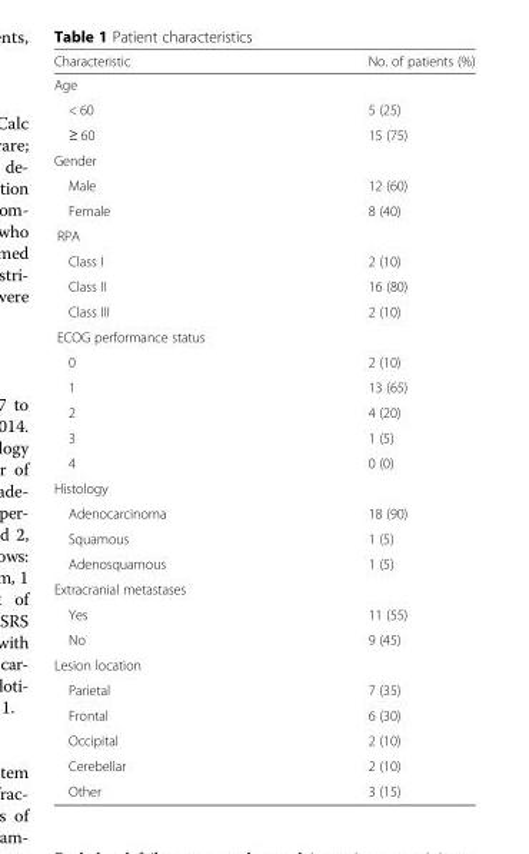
<table><thead><tr><td>Characteristic</td><td>No. of patients (%)</td></tr></thead><tbody><tr><td colspan="2">Age</td></tr><tr><td>&lt; 60</td><td>5 (25)</td></tr><tr><td>≥ 60</td><td>15 (75)</td></tr><tr><td colspan="2">Gender</td></tr><tr><td>Male</td><td>12 (60)</td></tr><tr><td>Female</td><td>8 (40)</td></tr><tr><td colspan="2">RPA</td></tr><tr><td>Class I</td><td>2 (10)</td></tr><tr><td>Class II</td><td>16 (80)</td></tr><tr><td>Class III</td><td>2 (10)</td></tr><tr><td colspan="2">ECOG performance status</td></tr><tr><td>0</td><td>2 (10)</td></tr><tr><td>1</td><td>13 (65)</td></tr><tr><td>2</td><td>4 (20)</td></tr><tr><td>3</td><td>1 (5)</td></tr><tr><td>4</td><td>0 (0)</td></tr><tr><td colspan="2">Histology</td></tr><tr><td>Adenocarcinoma</td><td>18 (90)</td></tr><tr><td>Squamous</td><td>1 (5)</td></tr><tr><td>Adenosquamous</td><td>1 (5)</td></tr><tr><td colspan="2">Extracranial metastases</td></tr><tr><td>Yes</td><td>11 (55)</td></tr><tr><td>No</td><td>9 (45)</td></tr><tr><td colspan="2">Lesion location</td></tr><tr><td>Parietal</td><td>7 (35)</td></tr><tr><td>Frontal</td><td>6 (30)</td></tr><tr><td>Occipital</td><td>2 (10)</td></tr><tr><td>Cerebellar</td><td>2 (10)</td></tr><tr><td>Other</td><td>3 (15)</td></tr></tbody></table>